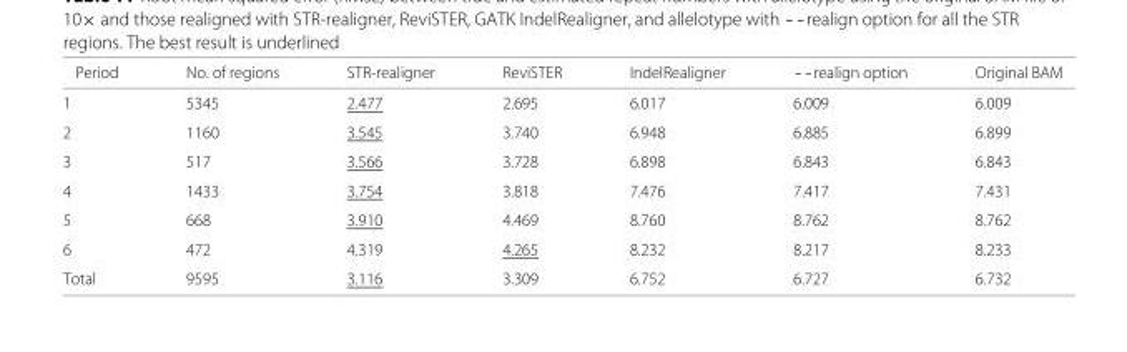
<table><thead><tr><td>Period</td><td>No. of regions</td><td>STR-realigner</td><td>ReviSTER</td><td>IndelRealigner</td><td>--realign option</td><td>Original BAM</td></tr></thead><tbody><tr><td>1</td><td>5345</td><td>2.477</td><td>2.695</td><td>6.017</td><td>6.009</td><td>6.009</td></tr><tr><td>2</td><td>1160</td><td>3.545</td><td>3.740</td><td>6.948</td><td>6.885</td><td>6.899</td></tr><tr><td>3</td><td>517</td><td>3.566</td><td>3.728</td><td>6.898</td><td>6.843</td><td>6.843</td></tr><tr><td>4</td><td>1433</td><td>3.754</td><td>3.818</td><td>7.476</td><td>7.417</td><td>7.431</td></tr><tr><td>5</td><td>668</td><td>3.910</td><td>4.469</td><td>8.760</td><td>8.762</td><td>8.762</td></tr><tr><td>6</td><td>472</td><td>4.319</td><td>4.265</td><td>8.232</td><td>8.217</td><td>8.233</td></tr><tr><td>Total</td><td>9595</td><td>3.116</td><td>3.309</td><td>6.752</td><td>6.727</td><td>6.732</td></tr></tbody></table>